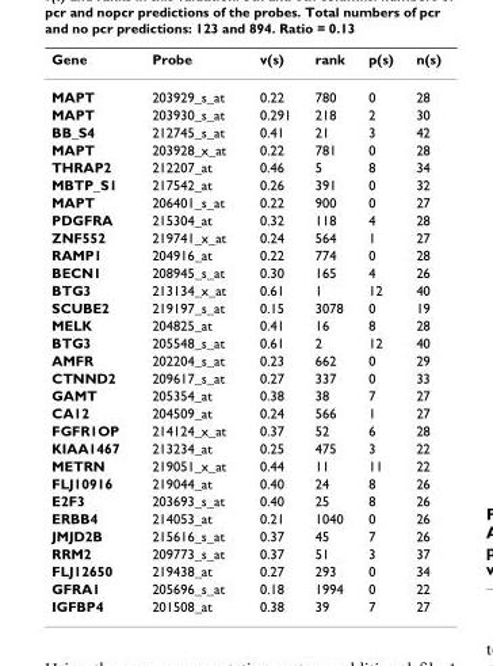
<table><thead><tr><td>Gene</td><td>Probe</td><td>v(s)</td><td>rank</td><td>p(s)</td><td>n(s)</td></tr></thead><tbody><tr><td>MAPT</td><td>203929_s_at</td><td>0.22</td><td>780</td><td>0</td><td>28</td></tr><tr><td>MAPT</td><td>203930_s_at</td><td>0.291</td><td>218</td><td>2</td><td>30</td></tr><tr><td>BB_S4</td><td>212745_s_at</td><td>0.41</td><td>21</td><td>3</td><td>42</td></tr><tr><td>MAPT</td><td>203928_x_at</td><td>0.22</td><td>781</td><td>0</td><td>28</td></tr><tr><td>THRAP2</td><td>212207_at</td><td>0.46</td><td>5</td><td>8</td><td>34</td></tr><tr><td>MBTP_S1</td><td>217542_at</td><td>0.26</td><td>391</td><td>0</td><td>32</td></tr><tr><td>MAPT</td><td>206401_s_at</td><td>0.22</td><td>900</td><td>0</td><td>27</td></tr><tr><td>PDGFRA</td><td>215304_at</td><td>0.32</td><td>118</td><td>4</td><td>28</td></tr><tr><td>ZNF552</td><td>219741_x_at</td><td>0.24</td><td>564</td><td>1</td><td>27</td></tr><tr><td>RAMP1</td><td>204916_at</td><td>0.22</td><td>774</td><td>0</td><td>28</td></tr><tr><td>BECN1</td><td>208945_s_at</td><td>0.30</td><td>165</td><td>4</td><td>26</td></tr><tr><td>BTG3</td><td>213134_x_at</td><td>0.61</td><td>1</td><td>12</td><td>40</td></tr><tr><td>SCUBE2</td><td>219197_s_at</td><td>0.15</td><td>3078</td><td>0</td><td>19</td></tr><tr><td>MELK</td><td>204825_at</td><td>0.41</td><td>16</td><td>8</td><td>28</td></tr><tr><td>BTG3</td><td>205548_s_at</td><td>0.61</td><td>2</td><td>12</td><td>40</td></tr><tr><td>AMFR</td><td>202204_s_at</td><td>0.23</td><td>662</td><td>0</td><td>29</td></tr><tr><td>CTNND2</td><td>209617_s_at</td><td>0.27</td><td>337</td><td>0</td><td>33</td></tr><tr><td>GAMT</td><td>205354_at</td><td>0.38</td><td>38</td><td>7</td><td>27</td></tr><tr><td>CA12</td><td>204509_at</td><td>0.24</td><td>566</td><td>1</td><td>27</td></tr><tr><td>FGFR1OP</td><td>214124_x_at</td><td>0.37</td><td>52</td><td>6</td><td>28</td></tr><tr><td>KIAA1467</td><td>213234_at</td><td>0.25</td><td>475</td><td>3</td><td>22</td></tr><tr><td>METRN</td><td>219051_x_at</td><td>0.44</td><td>11</td><td>11</td><td>22</td></tr><tr><td>FLJ10916</td><td>219044_at</td><td>0.40</td><td>24</td><td>8</td><td>26</td></tr><tr><td>E2F3</td><td>203693_s_at</td><td>0.40</td><td>25</td><td>8</td><td>26</td></tr><tr><td>ERBB4</td><td>214053_at</td><td>0.21</td><td>1040</td><td>0</td><td>26</td></tr><tr><td>JMJD2B</td><td>215616_s_at</td><td>0.37</td><td>45</td><td>7</td><td>26</td></tr><tr><td>RRM2</td><td>209773_s_at</td><td>0.37</td><td>51</td><td>3</td><td>37</td></tr><tr><td>FLJ12650</td><td>219438_at</td><td>0.27</td><td>293</td><td>0</td><td>34</td></tr><tr><td>GFRA1</td><td>205696_s_at</td><td>0.18</td><td>1994</td><td>0</td><td>22</td></tr><tr><td>IGFBP4</td><td>201508_at</td><td>0.38</td><td>39</td><td>7</td><td>27</td></tr></tbody></table>